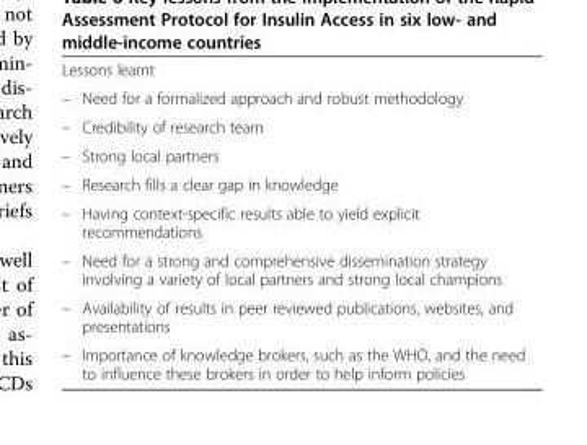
<table><tbody><tr><td colspan="2">Lessons learnt</td></tr><tr><td>–</td><td>Need for a formalized approach and robust methodology</td></tr><tr><td>–</td><td>Credibility of research team</td></tr><tr><td>–</td><td>Strong local partners</td></tr><tr><td>–</td><td>Research fills a clear gap in knowledge</td></tr><tr><td>–</td><td>Having context-specific results able to yield explicit recommendations</td></tr><tr><td>–</td><td>Need for a strong and comprehensive dissemination strategy involving a variety of local partners and strong local champions</td></tr><tr><td>–</td><td>Availability of results in peer reviewed publications, websites, and presentations</td></tr><tr><td>–</td><td>Importance of knowledge brokers, such as the WHO, and the need to influence these brokers in order to help inform policies</td></tr></tbody></table>